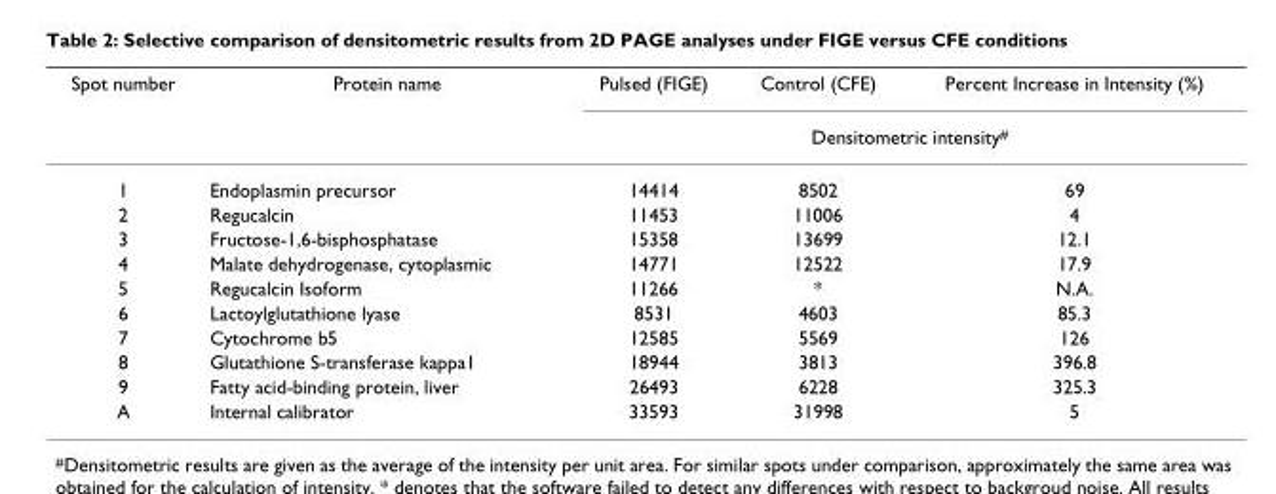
<table><thead><tr><td rowspan="2">Spot number</td><td rowspan="2">Protein name</td><td>Pulsed (FIGE)</td><td>Control (CFE)</td><td>Percent Increase in Intensity (%)</td></tr><tr><td colspan="3">Densitometric intensity<sup>#</sup></td></tr></thead><tbody><tr><td>1</td><td>Endoplasmin precursor</td><td>14414</td><td>8502</td><td>69</td></tr><tr><td>2</td><td>Regucalcin</td><td>11453</td><td>11006</td><td>4</td></tr><tr><td>3</td><td>Fructose-1,6-bisphosphatase</td><td>15358</td><td>13699</td><td>12.1</td></tr><tr><td>4</td><td>Malate dehydrogenase, cytoplasmic</td><td>14771</td><td>12522</td><td>17.9</td></tr><tr><td>5</td><td>Regucalcin Isoform</td><td>11266</td><td>*</td><td>N.A.</td></tr><tr><td>6</td><td>Lactoylglutathione lyase</td><td>8531</td><td>4603</td><td>85.3</td></tr><tr><td>7</td><td>Cytochrome b5</td><td>12585</td><td>5569</td><td>126</td></tr><tr><td>8</td><td>Glutathione S-transferase kappa1</td><td>18944</td><td>3813</td><td>396.8</td></tr><tr><td>9</td><td>Fatty acid-binding protein, liver</td><td>26493</td><td>6228</td><td>325.3</td></tr><tr><td>A</td><td>Internal calibrator</td><td>33593</td><td>31998</td><td>5</td></tr></tbody></table>